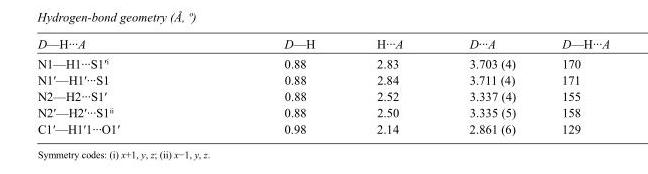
<table><tbody><tr><td>D—H···A</td><td>D—H</td><td>H···A</td><td>D···A</td><td>D—H···A</td></tr><tr><td>N1—H1···S1′<sup>i</sup></td><td>0.88</td><td>2.83</td><td>3.703 (4)</td><td>170</td></tr><tr><td>N1′—H1′···S1</td><td>0.88</td><td>2.84</td><td>3.711 (4)</td><td>171</td></tr><tr><td>N2—H2···S1′</td><td>0.88</td><td>2.52</td><td>3.337 (4)</td><td>155</td></tr><tr><td>N2′—H2′···S1<sup>ii</sup></td><td>0.88</td><td>2.50</td><td>3.335 (5)</td><td>158</td></tr><tr><td>C1′—H1′1···O1′</td><td>0.98</td><td>2.14</td><td>2.861 (6)</td><td>129</td></tr></tbody></table>